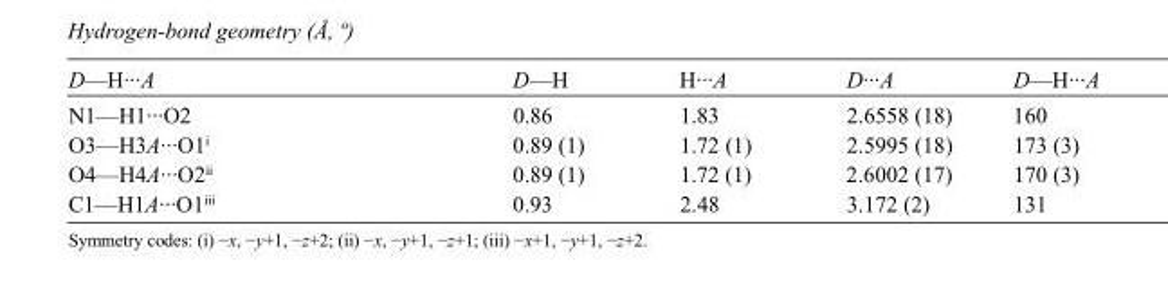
<table><tbody><tr><td>D—H···A</td><td>D—H</td><td>H···A</td><td>D···A</td><td>D—H···A</td></tr><tr><td>N1—H1···O2</td><td>0.86</td><td>1.83</td><td>2.6558 (18)</td><td>160</td></tr><tr><td>O3—H3A···O1<sup>i</sup></td><td>0.89 (1)</td><td>1.72 (1)</td><td>2.5995 (18)</td><td>173 (3)</td></tr><tr><td>O4—H4A···O2<sup>ii</sup></td><td>0.89 (1)</td><td>1.72 (1)</td><td>2.6002 (17)</td><td>170 (3)</td></tr><tr><td>C1—H1A···O1<sup>iii</sup></td><td>0.93</td><td>2.48</td><td>3.172 (2)</td><td>131</td></tr></tbody></table>